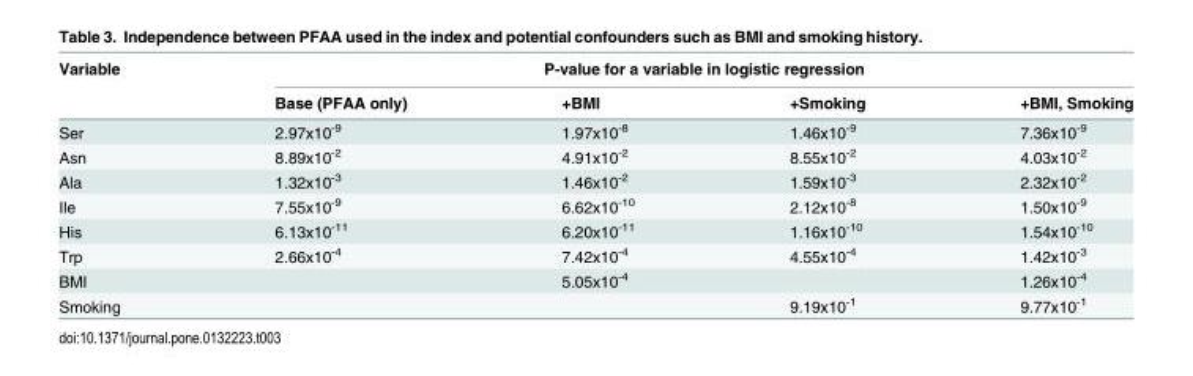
<table><thead><tr><td rowspan="2">Variable</td><td colspan="4">P-value for a variable in logistic regression</td></tr><tr><td>Base (PFAA only)</td><td>+BMI</td><td>+Smoking</td><td>+BMI, Smoking</td></tr></thead><tbody><tr><td>Ser</td><td>2.97x10<sup>-9</sup></td><td>1.97x10<sup>-8</sup></td><td>1.46x10<sup>-9</sup></td><td>7.36x10<sup>-9</sup></td></tr><tr><td>Asn</td><td>8.89x10<sup>-2</sup></td><td>4.91x10<sup>-2</sup></td><td>8.55x10<sup>-2</sup></td><td>4.03x10<sup>-2</sup></td></tr><tr><td>Ala</td><td>1.32x10<sup>-3</sup></td><td>1.46x10<sup>-2</sup></td><td>1.59x10<sup>-3</sup></td><td>2.32x10<sup>-2</sup></td></tr><tr><td>Ile</td><td>7.55x10<sup>-9</sup></td><td>6.62x10<sup>-10</sup></td><td>2.12x10<sup>-8</sup></td><td>1.50x10<sup>-9</sup></td></tr><tr><td>His</td><td>6.13x10<sup>-11</sup></td><td>6.20x10<sup>-11</sup></td><td>1.16x10<sup>-10</sup></td><td>1.54x10<sup>-10</sup></td></tr><tr><td>Trp</td><td>2.66x10<sup>-4</sup></td><td>7.42x10<sup>-4</sup></td><td>4.55x10<sup>-4</sup></td><td>1.42x10<sup>-3</sup></td></tr><tr><td>BMI</td><td></td><td>5.05x10<sup>-4</sup></td><td></td><td>1.26x10<sup>-4</sup></td></tr><tr><td>Smoking</td><td></td><td></td><td>9.19x10<sup>-1</sup></td><td>9.77x10<sup>-1</sup></td></tr></tbody></table>